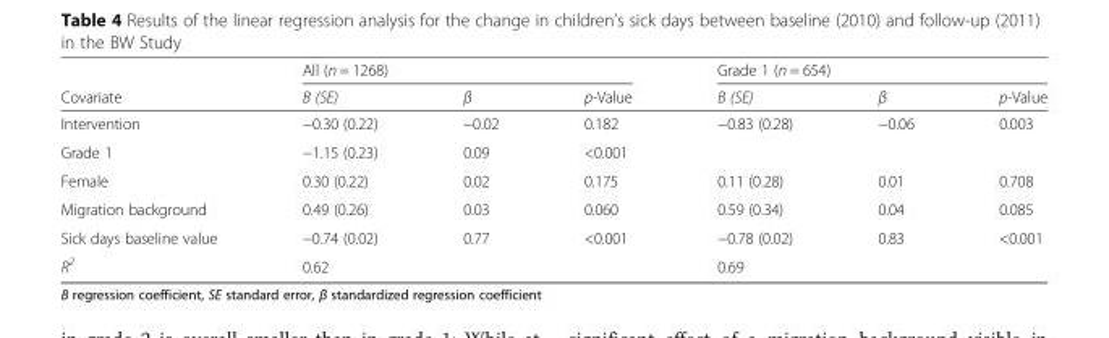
<table><thead><tr><td rowspan="2">Covariate</td><td colspan="3">All (n = 1268)</td><td colspan="3">Grade 1 (n = 654)</td></tr><tr><td>B (SE)</td><td>β</td><td>p-Value</td><td>B (SE)</td><td>β</td><td>p-Value</td></tr></thead><tbody><tr><td>Intervention</td><td>−0.30 (0.22)</td><td>−0.02</td><td>0.182</td><td>−0.83 (0.28)</td><td>−0.06</td><td>0.003</td></tr><tr><td>Grade 1</td><td>−1.15 (0.23)</td><td>0.09</td><td>&lt;0.001</td><td></td><td></td><td></td></tr><tr><td>Female</td><td>0.30 (0.22)</td><td>0.02</td><td>0.175</td><td>0.11 (0.28)</td><td>0.01</td><td>0.708</td></tr><tr><td>Migration background</td><td>0.49 (0.26)</td><td>0.03</td><td>0.060</td><td>0.59 (0.34)</td><td>0.04</td><td>0.085</td></tr><tr><td>Sick days baseline value</td><td>−0.74 (0.02)</td><td>0.77</td><td>&lt;0.001</td><td>−0.78 (0.02)</td><td>0.83</td><td>&lt;0.001</td></tr><tr><td>R<sup>2</sup></td><td>0.62</td><td></td><td></td><td>0.69</td><td></td><td></td></tr></tbody></table>